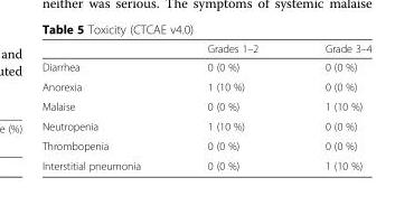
<table><thead><tr><td></td><td>Grades 1–2</td><td>Grade 3–4</td></tr></thead><tbody><tr><td>Diarrhea</td><td>0 (0 %)</td><td>0 (0 %)</td></tr><tr><td>Anorexia</td><td>1 (10 %)</td><td>0 (0 %)</td></tr><tr><td>Malaise</td><td>0 (0 %)</td><td>1 (10 %)</td></tr><tr><td>Neutropenia</td><td>1 (10 %)</td><td>0 (0 %)</td></tr><tr><td>Thrombopenia</td><td>0 (0 %)</td><td>0 (0 %)</td></tr><tr><td>Interstitial pneumonia</td><td>0 (0 %)</td><td>1 (10 %)</td></tr></tbody></table>